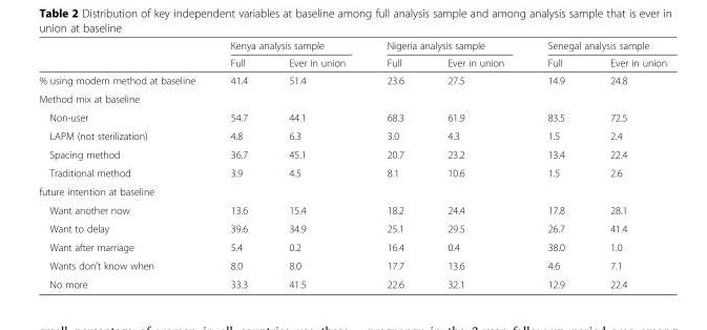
<table><thead><tr><td rowspan="2"></td><td colspan="2">Kenya analysis sample</td><td colspan="2">Nigeria analysis sample</td><td colspan="2">Senegal analysis sample</td></tr><tr><td>Full</td><td>Ever in union</td><td>Full</td><td>Ever in union</td><td>Full</td><td>Ever in union</td></tr></thead><tbody><tr><td>% using modern method at baseline</td><td>41.4</td><td>51.4</td><td>23.6</td><td>27.5</td><td>14.9</td><td>24.8</td></tr><tr><td colspan="7">Method mix at baseline</td></tr><tr><td>Non-user</td><td>54.7</td><td>44.1</td><td>68.3</td><td>61.9</td><td>83.5</td><td>72.5</td></tr><tr><td>LAPM (not sterilization)</td><td>4.8</td><td>6.3</td><td>3.0</td><td>4.3</td><td>1.5</td><td>2.4</td></tr><tr><td>Spacing method</td><td>36.7</td><td>45.1</td><td>20.7</td><td>23.2</td><td>13.4</td><td>22.4</td></tr><tr><td>Traditional method</td><td>3.9</td><td>4.5</td><td>8.1</td><td>10.6</td><td>1.5</td><td>2.6</td></tr><tr><td colspan="7">future intention at baseline</td></tr><tr><td>Want another now</td><td>13.6</td><td>15.4</td><td>18.2</td><td>24.4</td><td>17.8</td><td>28.1</td></tr><tr><td>Want to delay</td><td>39.6</td><td>34.9</td><td>25.1</td><td>29.5</td><td>26.7</td><td>41.4</td></tr><tr><td>Want after marriage</td><td>5.4</td><td>0.2</td><td>16.4</td><td>0.4</td><td>38.0</td><td>1.0</td></tr><tr><td>Wants don’t know when</td><td>8.0</td><td>8.0</td><td>17.7</td><td>13.6</td><td>4.6</td><td>7.1</td></tr><tr><td>No more</td><td>33.3</td><td>41.5</td><td>22.6</td><td>32.1</td><td>12.9</td><td>22.4</td></tr></tbody></table>